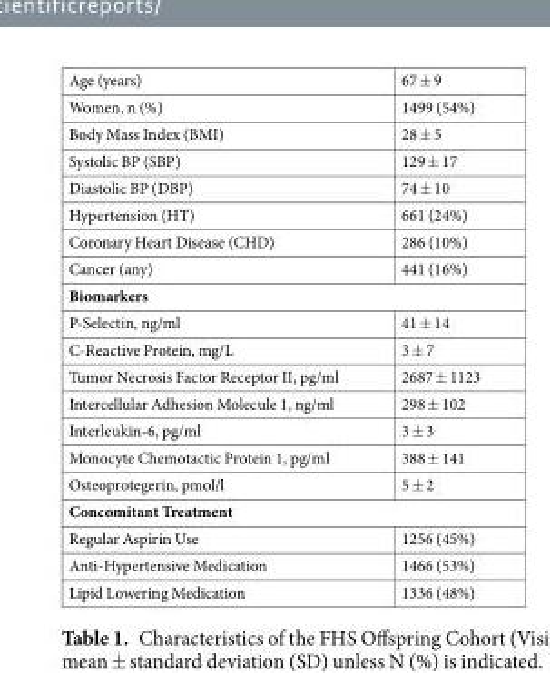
<table><tbody><tr><td>Age (years)</td><td>67 ± 9</td></tr><tr><td>Women, n (%)</td><td>1499 (54%)</td></tr><tr><td>Body Mass Index (BMI)</td><td>28 ± 5</td></tr><tr><td>Systolic BP (SBP)</td><td>129 ± 17</td></tr><tr><td>Diastolic BP (DBP)</td><td>74 ± 10</td></tr><tr><td>Hypertension (HT)</td><td>661 (24%)</td></tr><tr><td>Coronary Heart Disease (CHD)</td><td>286 (10%)</td></tr><tr><td>Cancer (any)</td><td>441 (16%)</td></tr><tr><td colspan="2">Biomarkers</td></tr><tr><td>P-Selectin, ng/ml</td><td>41 ± 14</td></tr><tr><td>C-Reactive Protein, mg/L</td><td>3 ± 7</td></tr><tr><td>Tumor Necrosis Factor Receptor II, pg/ml</td><td>2687 ± 1123</td></tr><tr><td>Intercellular Adhesion Molecule 1, ng/ml</td><td>298 ± 102</td></tr><tr><td>Interleukin-6, pg/ml</td><td>3 ± 3</td></tr><tr><td>Monocyte Chemotactic Protein 1, pg/ml</td><td>388 ± 141</td></tr><tr><td>Osteoprotegerin, pmol/l</td><td>5 ± 2</td></tr><tr><td colspan="2">Concomitant Treatment</td></tr><tr><td>Regular Aspirin Use</td><td>1256 (45%)</td></tr><tr><td>Anti-Hypertensive Medication</td><td>1466 (53%)</td></tr><tr><td>Lipid Lowering Medication</td><td>1336 (48%)</td></tr></tbody></table>